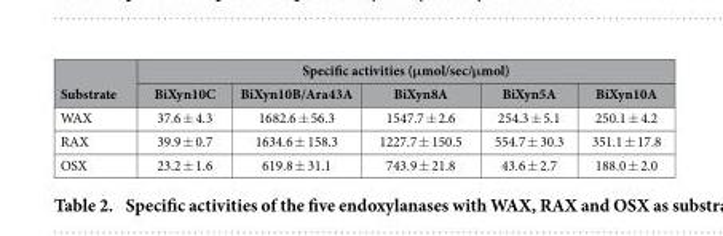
<table><thead><tr><td rowspan="2">Substrate</td><td colspan="5">Specific activities (μmol/sec/μmol)</td></tr><tr><td>BiXyn10C</td><td>BiXyn10B/Ara43A</td><td>BiXyn8A</td><td>BiXyn5A</td><td>BiXyn10A</td></tr></thead><tbody><tr><td>WAX</td><td>37.6 ± 4.3</td><td>1682.6 ± 56.3</td><td>1547.7 ± 2.6</td><td>254.3 ± 5.1</td><td>250.1 ± 4.2</td></tr><tr><td>RAX</td><td>39.9 ± 0.7</td><td>1634.6 ± 158.3</td><td>1227.7 ± 150.5</td><td>554.7 ± 30.3</td><td>351.1 ± 17.8</td></tr><tr><td>OSX</td><td>23.2 ± 1.6</td><td>619.8 ± 31.1</td><td>743.9 ± 21.8</td><td>43.6 ± 2.7</td><td>188.0 ± 2.0</td></tr></tbody></table>